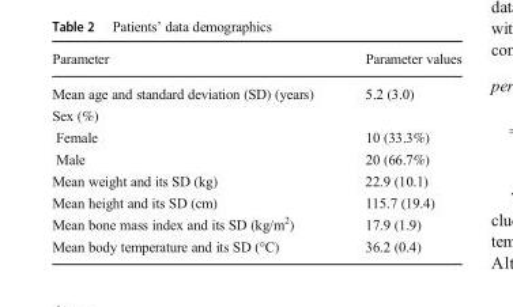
<table><thead><tr><td>Parameter</td><td>Parameter values</td></tr></thead><tbody><tr><td>Mean age and standard deviation (SD) (years)</td><td>5.2 (3.0)</td></tr><tr><td colspan="2">Sex (%)</td></tr><tr><td>Female</td><td>10 (33.3%)</td></tr><tr><td>Male</td><td>20 (66.7%)</td></tr><tr><td>Mean weight and its SD (kg)</td><td>22.9 (10.1)</td></tr><tr><td>Mean height and its SD (cm)</td><td>115.7 (19.4)</td></tr><tr><td>Mean bone mass index and its SD (kg/m<sup>2</sup>)</td><td>17.9 (1.9)</td></tr><tr><td>Mean body temperature and its SD (°C)</td><td>36.2 (0.4)</td></tr></tbody></table>